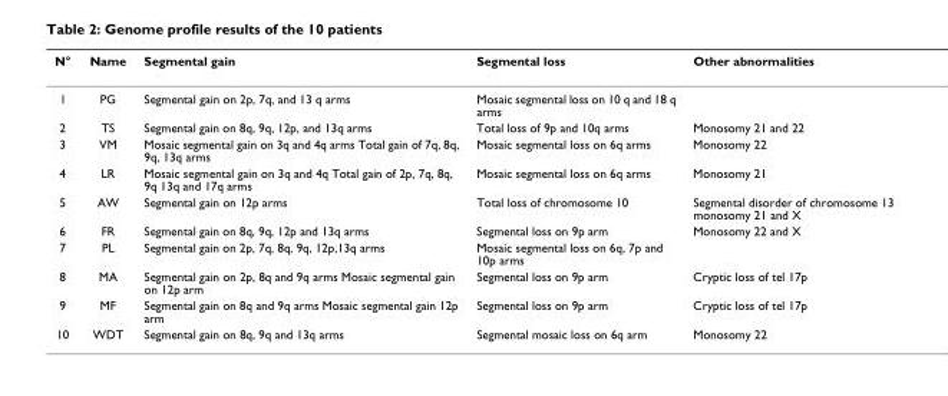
<table><thead><tr><td>N°</td><td>Name</td><td>Segmental gain</td><td>Segmental loss</td><td>Other abnormalities</td></tr></thead><tbody><tr><td>l</td><td>PG</td><td>Segmental gain on 2p, 7q, and 13 q arms</td><td>Mosaic segmental loss on 10 q and 18 q arms</td><td></td></tr><tr><td>2</td><td>TS</td><td>Segmental gain on 8q, 9q, 12p, and 13q arms</td><td>Total loss of 9p and 10q arms</td><td>Monosomy 21 and 22</td></tr><tr><td>3</td><td>VM</td><td>Mosaic segmental gain on 3q and 4q arms Total gain of 7q, 8q, 9q, 13q arms</td><td>Mosaic segmental loss on 6q arms</td><td>Monosomy 22</td></tr><tr><td>4</td><td>LR</td><td>Mosaic segmental gain on 3q and 4q Total gain of 2p, 7q, 8q, 9q 13q and 17q arms</td><td>Mosaic segmental loss on 6q arms</td><td>Monosomy 21</td></tr><tr><td>5</td><td>AW</td><td>Segmental gain on 12p arms</td><td>Total loss of chromosome 10</td><td>Segmental disorder of chromosome 13 monosomy 21 and X</td></tr><tr><td>6</td><td>FR</td><td>Segmental gain on 8q, 9q, 12p and 13q arms</td><td>Segmental loss on 9p arm</td><td>Monosomy 22 and X</td></tr><tr><td>7</td><td>PL</td><td>Segmental gain on 2p, 7q, 8q, 9q, 12p,13q arms</td><td>Mosaic segmental loss on 6q, 7p and 10p arms</td><td></td></tr><tr><td>8</td><td>MA</td><td>Segmental gain on 2p, 8q and 9q arms Mosaic segmental gain on 12p arm</td><td>Segmental loss on 9p arm</td><td>Cryptic loss of tel 17p</td></tr><tr><td>9</td><td>MF</td><td>Segmental gain on 8q and 9q arms Mosaic segmental gain 12p arm</td><td>Segmental loss on 9p arm</td><td>Cryptic loss of tel 17p</td></tr><tr><td>10</td><td>WDT</td><td>Segmental gain on 8q, 9q and 13q arms</td><td>Segmental mosaic loss on 6q arm</td><td>Monosomy 22</td></tr></tbody></table>